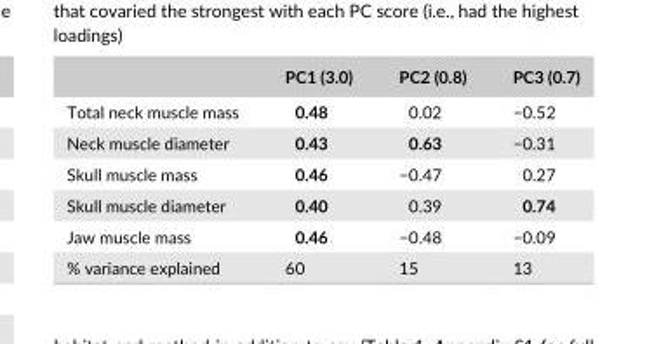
<table><thead><tr><td></td><td>PC1 (3.0)</td><td>PC2 (0.8)</td><td>PC3 (0.7)</td></tr></thead><tbody><tr><td>Total neck muscle mass</td><td>0.48</td><td>0.02</td><td>−0.52</td></tr><tr><td>Neck muscle diameter</td><td>0.43</td><td>0.63</td><td>−0.31</td></tr><tr><td>Skull muscle mass</td><td>0.46</td><td>−0.47</td><td>0.27</td></tr><tr><td>Skull muscle diameter</td><td>0.40</td><td>0.39</td><td>0.74</td></tr><tr><td>Jaw muscle mass</td><td>0.46</td><td>−0.48</td><td>−0.09</td></tr><tr><td>% variance explained</td><td>60</td><td>15</td><td>13</td></tr></tbody></table>